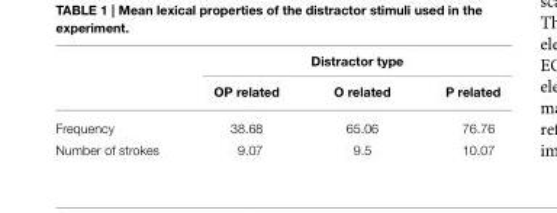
<table><thead><tr><td rowspan="2"></td><td colspan="3">Distractor type</td></tr><tr><td>OP related</td><td>O related</td><td>P related</td></tr></thead><tbody><tr><td>Frequency</td><td>38.68</td><td>65.06</td><td>76.76</td></tr><tr><td>Number of strokes</td><td>9.07</td><td>9.5</td><td>10.07</td></tr></tbody></table>